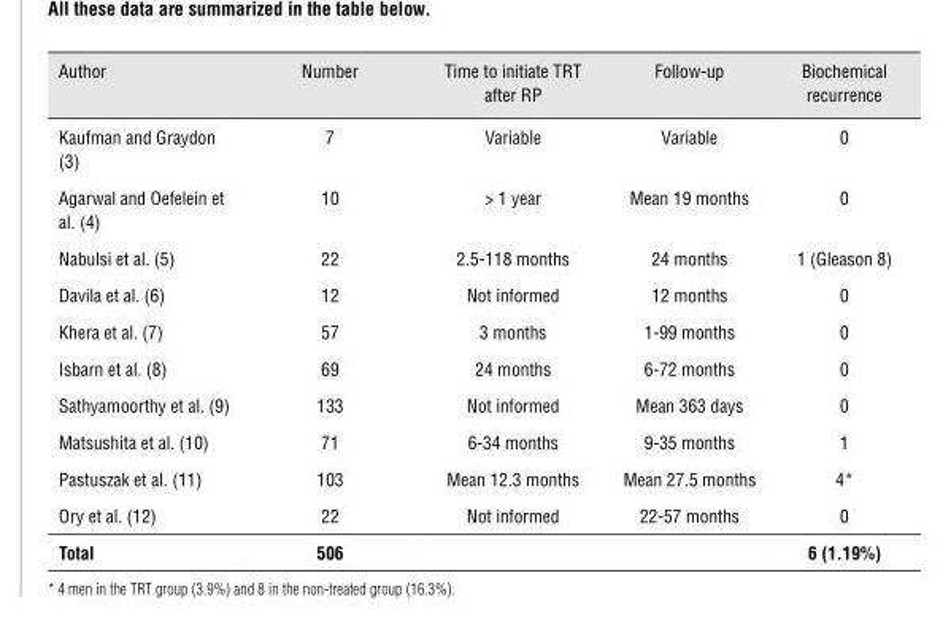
<table><thead><tr><td>Author</td><td>Number</td><td>Time to initiate TRT after RP</td><td>Follow-up</td><td>Biochemical recurrence</td></tr></thead><tbody><tr><td>Kaufman and Graydon (3)</td><td>7</td><td>Variable</td><td>Variable</td><td>0</td></tr><tr><td>Agarwal and Oefelein et al. (4)</td><td>10</td><td>&gt; 1 year</td><td>Mean 19 months</td><td>0</td></tr><tr><td>Nabulsi et al. (5)</td><td>22</td><td>2.5-118 months</td><td>24 months</td><td>1 (Gleason 8)</td></tr><tr><td>Davila et al. (6)</td><td>12</td><td>Not informed</td><td>12 months</td><td>0</td></tr><tr><td>Khera et al. (7)</td><td>57</td><td>3 months</td><td>1-99 months</td><td>0</td></tr><tr><td>Isbarn et al. (8)</td><td>69</td><td>24 months</td><td>6-72 months</td><td>0</td></tr><tr><td>Sathyamoorthy et al. (9)</td><td>133</td><td>Not informed</td><td>Mean 363 days</td><td>0</td></tr><tr><td>Matsushita et al. (10)</td><td>71</td><td>6-34 months</td><td>9-35 months</td><td>1</td></tr><tr><td>Pastuszak et al. (11)</td><td>103</td><td>Mean 12.3 months</td><td>Mean 27.5 months</td><td>4*</td></tr><tr><td>Ory et al. (12)</td><td>22</td><td>Not informed</td><td>22-57 months</td><td>0</td></tr><tr><td>Total</td><td>506</td><td></td><td></td><td>6 (1.19%)</td></tr></tbody></table>